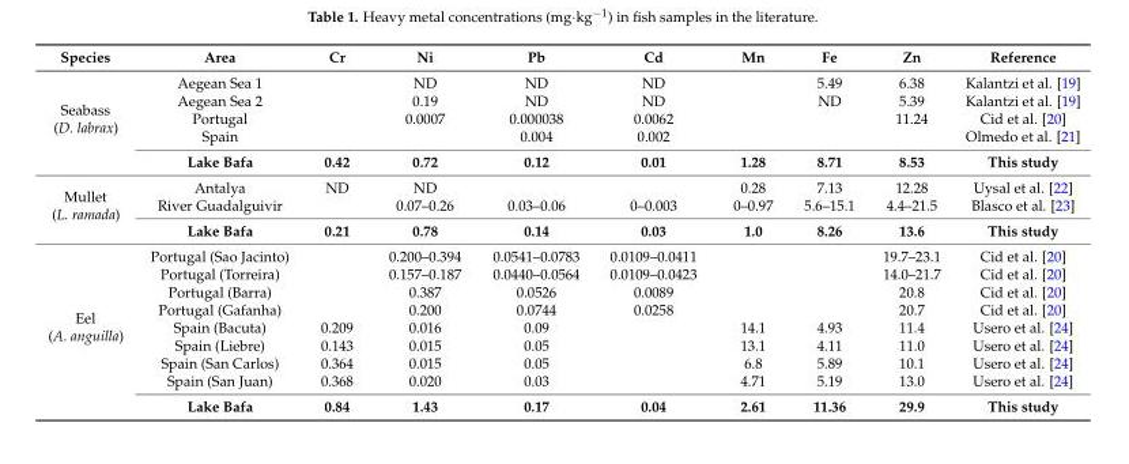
<table><thead><tr><td>Species</td><td>Area</td><td>Cr</td><td>Ni</td><td>Pb</td><td>Cd</td><td>Mn</td><td>Fe</td><td>Zn</td><td>Reference</td></tr></thead><tbody><tr><td rowspan="5">Seabass (D. labrax)</td><td>Aegean Sea 1</td><td></td><td>ND</td><td>ND</td><td>ND</td><td></td><td>5.49</td><td>6.38</td><td>Kalantzi et al. [19]</td></tr><tr><td>Aegean Sea 2</td><td></td><td>0.19</td><td>ND</td><td>ND</td><td></td><td>ND</td><td>5.39</td><td>Kalantzi et al. [19]</td></tr><tr><td>Portugal</td><td></td><td>0.0007</td><td>0.000038</td><td>0.0062</td><td></td><td></td><td>11.24</td><td>Cid et al. [20]</td></tr><tr><td>Spain</td><td></td><td></td><td>0.004</td><td>0.002</td><td></td><td></td><td></td><td>Olmedo et al. [21]</td></tr><tr><td>Lake Bafa</td><td>0.42</td><td>0.72</td><td>0.12</td><td>0.01</td><td>1.28</td><td>8.71</td><td>8.53</td><td>This study</td></tr><tr><td rowspan="3">Mullet (L. ramada)</td><td>Antalya</td><td>ND</td><td>ND</td><td></td><td></td><td>0.28</td><td>7.13</td><td>12.28</td><td>Uysal et al. [22]</td></tr><tr><td>River Guadalguivir</td><td></td><td>0.07–0.26</td><td>0.03–0.06</td><td>0–0.003</td><td>0–0.97</td><td>5.6–15.1</td><td>4.4–21.5</td><td>Blasco et al. [23]</td></tr><tr><td>Lake Bafa</td><td>0.21</td><td>0.78</td><td>0.14</td><td>0.03</td><td>1.0</td><td>8.26</td><td>13.6</td><td>This study</td></tr><tr><td rowspan="9">Eel (A. anguilla)</td><td>Portugal (Sao Jacinto)</td><td></td><td>0.200–0.394</td><td>0.0541–0.0783</td><td>0.0109–0.0411</td><td></td><td></td><td>19.7–23.1</td><td>Cid et al. [20]</td></tr><tr><td>Portugal (Torreira)</td><td></td><td>0.157–0.187</td><td>0.0440–0.0564</td><td>0.0109–0.0423</td><td></td><td></td><td>14.0–21.7</td><td>Cid et al. [20]</td></tr><tr><td>Portugal (Barra)</td><td></td><td>0.387</td><td>0.0526</td><td>0.0089</td><td></td><td></td><td>20.8</td><td>Cid et al. [20]</td></tr><tr><td>Portugal (Gafanha)</td><td></td><td>0.200</td><td>0.0744</td><td>0.0258</td><td></td><td></td><td>20.7</td><td>Cid et al. [20]</td></tr><tr><td>Spain (Bacuta)</td><td>0.209</td><td>0.016</td><td>0.09</td><td></td><td>14.1</td><td>4.93</td><td>11.4</td><td>Usero et al. [24]</td></tr><tr><td>Spain (Liebre)</td><td>0.143</td><td>0.015</td><td>0.05</td><td></td><td>13.1</td><td>4.11</td><td>11.0</td><td>Usero et al. [24]</td></tr><tr><td>Spain (San Carlos)</td><td>0.364</td><td>0.015</td><td>0.05</td><td></td><td>6.8</td><td>5.89</td><td>10.1</td><td>Usero et al. [24]</td></tr><tr><td>Spain (San Juan)</td><td>0.368</td><td>0.020</td><td>0.03</td><td></td><td>4.71</td><td>5.19</td><td>13.0</td><td>Usero et al. [24]</td></tr><tr><td>Lake Bafa</td><td>0.84</td><td>1.43</td><td>0.17</td><td>0.04</td><td>2.61</td><td>11.36</td><td>29.9</td><td>This study</td></tr></tbody></table>